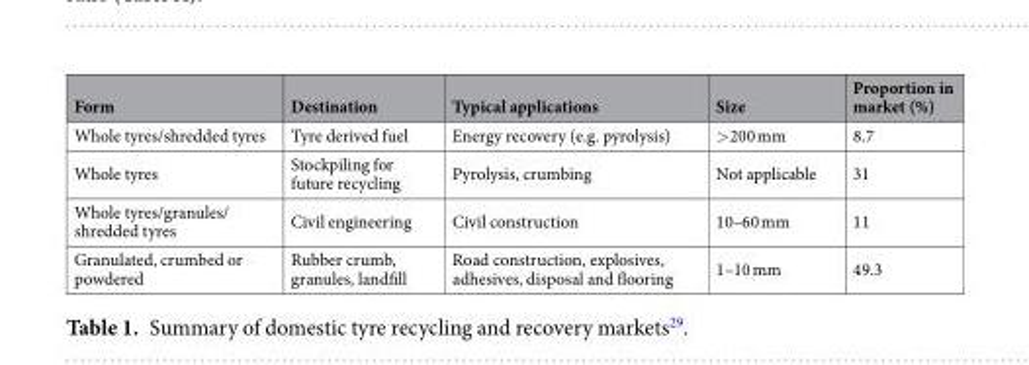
<table><thead><tr><td>Form</td><td>Destination</td><td>Typical applications</td><td>Size</td><td>Proportion in market (%)</td></tr></thead><tbody><tr><td>Whole tyres/shredded tyres</td><td>Tyre derived fuel</td><td>Energy recovery (e.g. pyrolysis)</td><td>&gt;200 mm</td><td>8.7</td></tr><tr><td>Whole tyres</td><td>Stockpiling for future recycling</td><td>Pyrolysis, crumbing</td><td>Not applicable</td><td>31</td></tr><tr><td>Whole tyres/granules/ shredded tyres</td><td>Civil engineering</td><td>Civil construction</td><td>10–60 mm</td><td>11</td></tr><tr><td>Granulated, crumbed or powdered</td><td>Rubber crumb, granules, landfill</td><td>Road construction, explosives, adhesives, disposal and flooring</td><td>1–10 mm</td><td>49.3</td></tr></tbody></table>